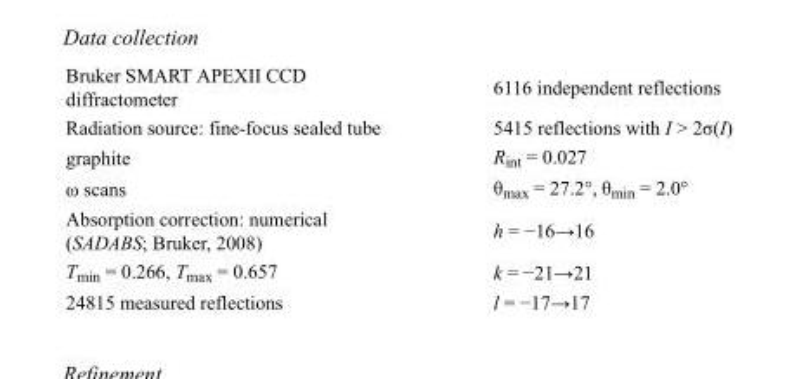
<table><tbody><tr><td>Bruker SMART APEXII CCD diffractometer</td><td>6116 independent reflections</td></tr><tr><td>Radiation source: fine-focus sealed tube</td><td>5415 reflections with I &gt; 2σ(I)</td></tr><tr><td>graphite</td><td>R<sub>int</sub> = 0.027</td></tr><tr><td>ω scans</td><td>θ<sub>max</sub> = 27.2°, θ<sub>min</sub> = 2.0°</td></tr><tr><td>Absorption correction: numerical (SADABS; Bruker, 2008)</td><td>h = −16→16</td></tr><tr><td>T<sub>min</sub> = 0.266, T<sub>max</sub> = 0.657</td><td>k = −21→21</td></tr><tr><td>24815 measured reflections</td><td>l = −17→17</td></tr></tbody></table>